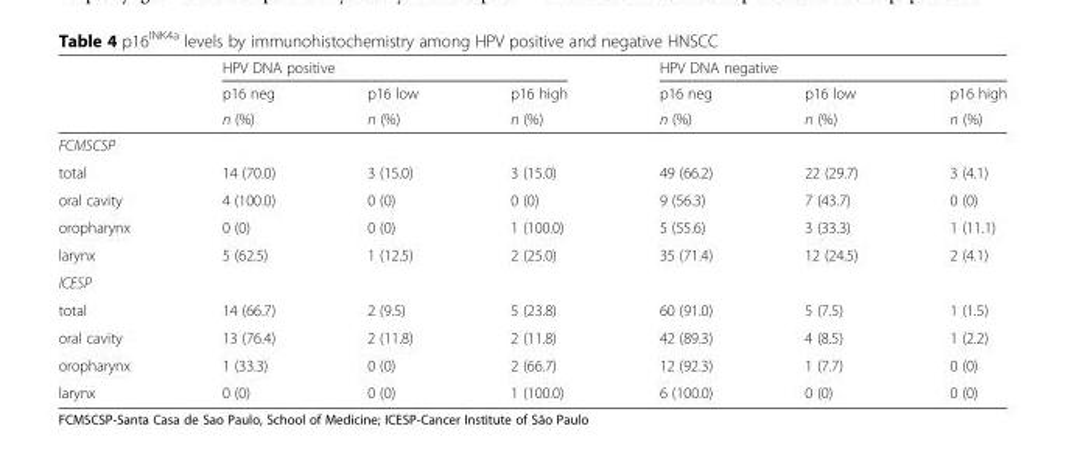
<table><thead><tr><td rowspan="3"></td><td colspan="3">HPV DNA positive</td><td colspan="3">HPV DNA negative</td></tr><tr><td rowspan="2">p16 neg n (%)</td><td rowspan="2">p16 low n (%)</td><td rowspan="2">p16 high n (%)</td><td rowspan="2">p16 neg n (%)</td><td rowspan="2">p16 low n (%)</td><td rowspan="2">p16 high n (%)</td></tr><tr></tr></thead><tbody><tr><td colspan="7">FCMSCSP</td></tr><tr><td>total</td><td>14 (70.0)</td><td>3 (15.0)</td><td>3 (15.0)</td><td>49 (66.2)</td><td>22 (29.7)</td><td>3 (4.1)</td></tr><tr><td>oral cavity</td><td>4 (100.0)</td><td>0 (0)</td><td>0 (0)</td><td>9 (56.3)</td><td>7 (43.7)</td><td>0 (0)</td></tr><tr><td>oropharynx</td><td>0 (0)</td><td>0 (0)</td><td>1 (100.0)</td><td>5 (55.6)</td><td>3 (33.3)</td><td>1 (11.1)</td></tr><tr><td>larynx</td><td>5 (62.5)</td><td>1 (12.5)</td><td>2 (25.0)</td><td>35 (71.4)</td><td>12 (24.5)</td><td>2 (4.1)</td></tr><tr><td colspan="7">ICESP</td></tr><tr><td>total</td><td>14 (66.7)</td><td>2 (9.5)</td><td>5 (23.8)</td><td>60 (91.0)</td><td>5 (7.5)</td><td>1 (1.5)</td></tr><tr><td>oral cavity</td><td>13 (76.4)</td><td>2 (11.8)</td><td>2 (11.8)</td><td>42 (89.3)</td><td>4 (8.5)</td><td>1 (2.2)</td></tr><tr><td>oropharynx</td><td>1 (33.3)</td><td>0 (0)</td><td>2 (66.7)</td><td>12 (92.3)</td><td>1 (7.7)</td><td>0 (0)</td></tr><tr><td>larynx</td><td>0 (0)</td><td>0 (0)</td><td>1 (100.0)</td><td>6 (100.0)</td><td>0 (0)</td><td>0 (0)</td></tr></tbody></table>